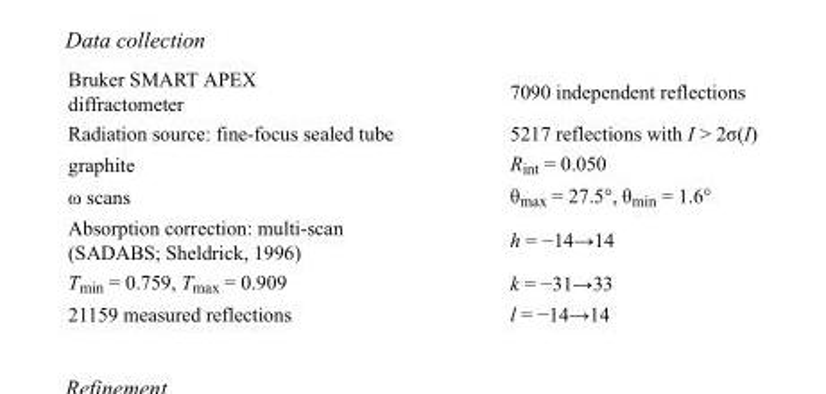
<table><tbody><tr><td>Bruker SMART APEX diffractometer</td><td>7090 independent reflections</td></tr><tr><td>Radiation source: fine-focus sealed tube</td><td>5217 reflections with I &gt; 2σ(I)</td></tr><tr><td>graphite</td><td>R<sub>int</sub> = 0.050</td></tr><tr><td>ω scans</td><td>θ<sub>max</sub> = 27.5°, θ<sub>min</sub> = 1.6°</td></tr><tr><td>Absorption correction: multi-scan (SADABS; Sheldrick, 1996)</td><td>h = −14→14</td></tr><tr><td>T<sub>min</sub> = 0.759, T<sub>max</sub> = 0.909</td><td>k = −31→33</td></tr><tr><td>21159 measured reflections</td><td>l = −14→14</td></tr></tbody></table>